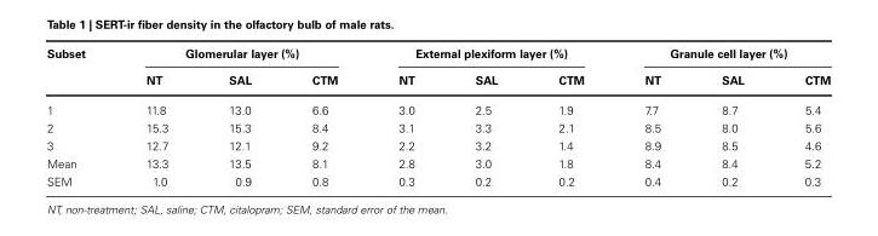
<table><thead><tr><td rowspan="2">Subset</td><td colspan="3">Glomerular layer (%)</td><td colspan="3">External plexiform layer (%)</td><td colspan="3">Granule cell layer (%)</td></tr><tr><td>NT</td><td>SAL</td><td>CTM</td><td>NT</td><td>SAL</td><td>CTM</td><td>NT</td><td>SAL</td><td>CTM</td></tr></thead><tbody><tr><td>1</td><td>11.8</td><td>13.0</td><td>6.6</td><td>3.0</td><td>2.5</td><td>1.9</td><td>7.7</td><td>8.7</td><td>5.4</td></tr><tr><td>2</td><td>15.3</td><td>15.3</td><td>8.4</td><td>3.1</td><td>3.3</td><td>2.1</td><td>8.5</td><td>8.0</td><td>5.6</td></tr><tr><td>3</td><td>12.7</td><td>12.1</td><td>9.2</td><td>2.2</td><td>3.2</td><td>1.4</td><td>8.9</td><td>8.5</td><td>4.6</td></tr><tr><td>Mean</td><td>13.3</td><td>13.5</td><td>8.1</td><td>2.8</td><td>3.0</td><td>1.8</td><td>8.4</td><td>8.4</td><td>5.2</td></tr><tr><td>SEM</td><td>1.0</td><td>0.9</td><td>0.8</td><td>0.3</td><td>0.2</td><td>0.2</td><td>0.4</td><td>0.2</td><td>0.3</td></tr></tbody></table>